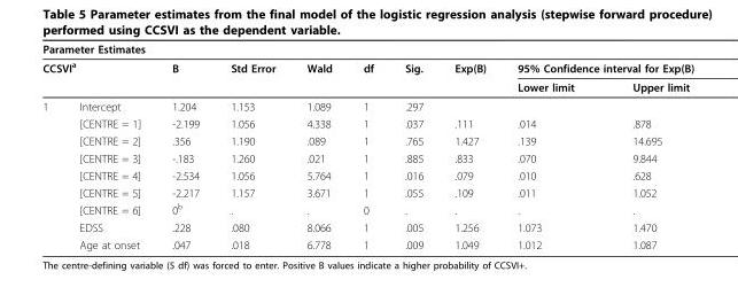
<table><thead><tr><td colspan="10">Parameter Estimates</td></tr><tr><td colspan="2">CCSVI<sup>a</sup></td><td rowspan="2">B</td><td rowspan="2">Std Error</td><td rowspan="2">Wald</td><td rowspan="2">df</td><td rowspan="2">Sig.</td><td rowspan="2">Exp(B)</td><td colspan="2">95% Confidence interval for Exp(B)</td></tr><tr><td></td><td></td><td>Lower limit</td><td>Upper limit</td></tr></thead><tbody><tr><td rowspan="9">1</td><td>Intercept</td><td>1.204</td><td>1.153</td><td>1.089</td><td>1</td><td>.297</td><td></td><td></td><td></td></tr><tr><td>[CENTRE = 1]</td><td>-2.199</td><td>1.056</td><td>4.338</td><td>1</td><td>.037</td><td>.111</td><td>.014</td><td>.878</td></tr><tr><td>[CENTRE = 2]</td><td>.356</td><td>1.190</td><td>.089</td><td>1</td><td>.765</td><td>1.427</td><td>.139</td><td>14.695</td></tr><tr><td>[CENTRE = 3]</td><td>-.183</td><td>1.260</td><td>.021</td><td>1</td><td>.885</td><td>.833</td><td>.070</td><td>9.844</td></tr><tr><td>[CENTRE = 4]</td><td>-2.534</td><td>1.056</td><td>5.764</td><td>1</td><td>.016</td><td>.079</td><td>.010</td><td>.628</td></tr><tr><td>[CENTRE = 5]</td><td>-2.217</td><td>1.157</td><td>3.671</td><td>1</td><td>.055</td><td>.109</td><td>.011</td><td>1.052</td></tr><tr><td>[CENTRE = 6]</td><td>0<sup>b</sup></td><td>.</td><td>.</td><td>0</td><td>.</td><td>.</td><td>.</td><td>.</td></tr><tr><td>EDSS</td><td>.228</td><td>.080</td><td>8.066</td><td>1</td><td>.005</td><td>1.256</td><td>1.073</td><td>1.470</td></tr><tr><td>Age at onset</td><td>.047</td><td>.018</td><td>6.778</td><td>1</td><td>.009</td><td>1.049</td><td>1.012</td><td>1.087</td></tr></tbody></table>